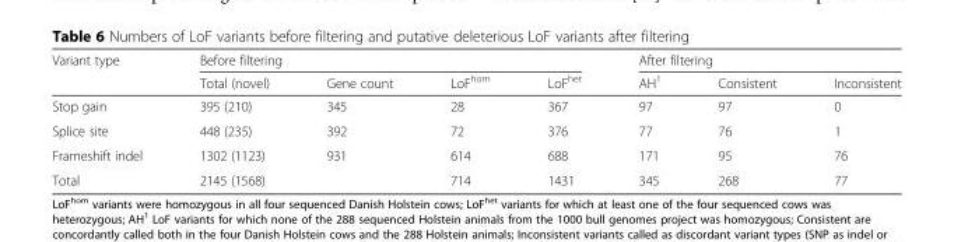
<table><thead><tr><td rowspan="2">Variant type</td><td colspan="4">Before filtering</td><td colspan="3">After filtering</td></tr><tr><td>Total (novel)</td><td>Gene count</td><td>LoF<sup>hom</sup></td><td>LoF<sup>het</sup></td><td>AH<sup>1</sup></td><td>Consistent</td><td>Inconsistent</td></tr></thead><tbody><tr><td>Stop gain</td><td>395 (210)</td><td>345</td><td>28</td><td>367</td><td>97</td><td>97</td><td>0</td></tr><tr><td>Splice site</td><td>448 (235)</td><td>392</td><td>72</td><td>376</td><td>77</td><td>76</td><td>1</td></tr><tr><td>Frameshift indel</td><td>1302 (1123)</td><td>931</td><td>614</td><td>688</td><td>171</td><td>95</td><td>76</td></tr><tr><td>Total</td><td>2145 (1568)</td><td></td><td>714</td><td>1431</td><td>345</td><td>268</td><td>77</td></tr></tbody></table>